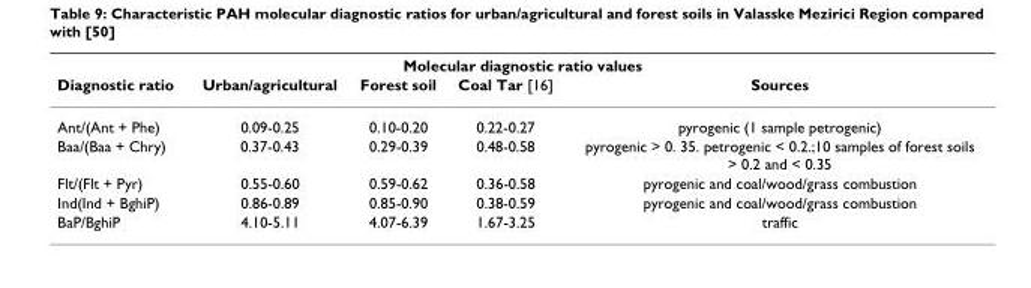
<table><thead><tr><td colspan="5">Molecular diagnostic ratio values</td></tr><tr><td>Diagnostic ratio</td><td>Urban/agricultural</td><td>Forest soil</td><td>Coal Tar [16]</td><td>Sources</td></tr></thead><tbody><tr><td>Ant/(Ant + Phe)</td><td>0.09-0.25</td><td>0.10-0.20</td><td>0.22-0.27</td><td>pyrogenic (1 sample petrogenic)</td></tr><tr><td>Baa/(Baa + Chry)</td><td>0.37-0.43</td><td>0.29-0.39</td><td>0.48-0.58</td><td>pyrogenic &gt; 0. 35. petrogenic &lt; 0.2.;10 samples of forest soils &gt; 0.2 and &lt; 0.35</td></tr><tr><td>Flt/(Flt + Pyr)</td><td>0.55-0.60</td><td>0.59-0.62</td><td>0.36-0.58</td><td>pyrogenic and coal/wood/grass combustion</td></tr><tr><td>Ind(Ind + BghiP)</td><td>0.86-0.89</td><td>0.85-0.90</td><td>0.38-0.59</td><td>pyrogenic and coal/wood/grass combustion</td></tr><tr><td>BaP/BghiP</td><td>4.10-5.11</td><td>4.07-6.39</td><td>1.67-3.25</td><td>traffic</td></tr></tbody></table>